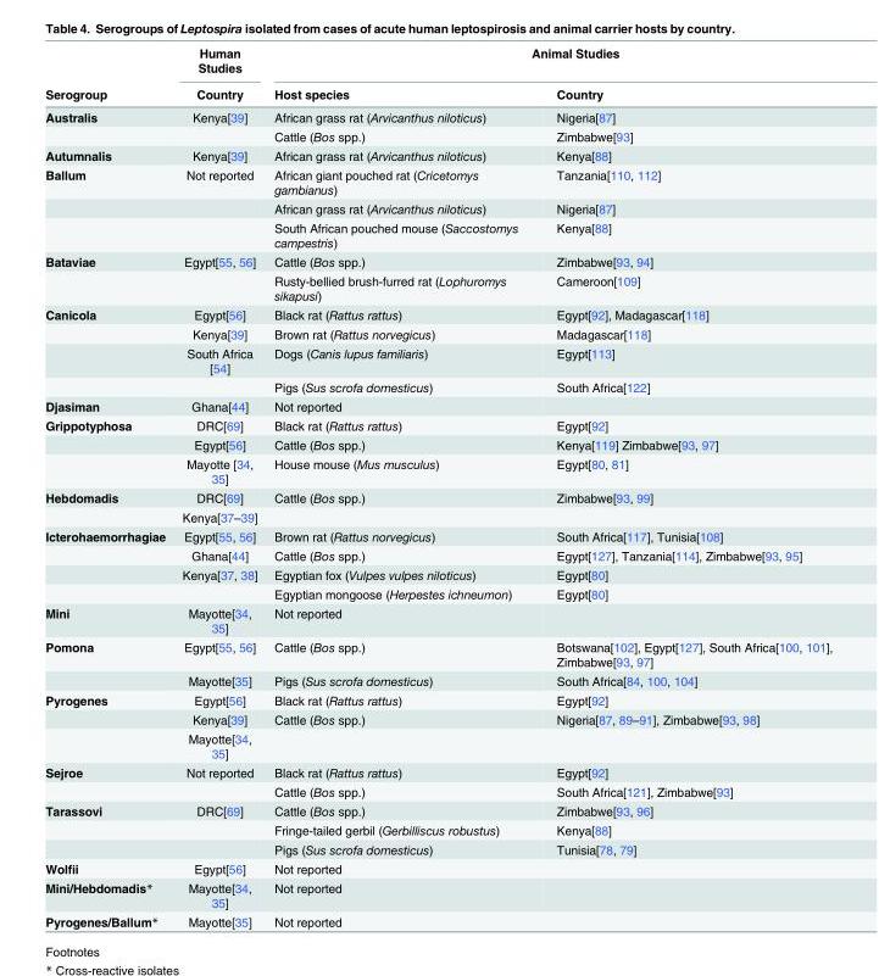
<table><thead><tr><td rowspan="2">Serogroup</td><td rowspan="2">Human Studies Country</td><td colspan="2">Animal Studies</td></tr><tr><td>Host species</td><td>Country</td></tr></thead><tbody><tr><td rowspan="2">Australis</td><td>Kenya[39]</td><td>African grass rat (Arvicanthus niloticus)</td><td>Nigeria[87]</td></tr><tr><td></td><td>Cattle (Bos spp.)</td><td>Zimbabwe[93]</td></tr><tr><td>Autumnalis</td><td>Kenya[39]</td><td>African grass rat (Arvicanthus niloticus)</td><td>Kenya[88]</td></tr><tr><td rowspan="3">Ballum</td><td>Not reported</td><td>African giant pouched rat (Cricetomys gambianus)</td><td>Tanzania[110, 112]</td></tr><tr><td></td><td>African grass rat (Arvicanthus niloticus)</td><td>Nigeria[87]</td></tr><tr><td></td><td>South African pouched mouse (Saccostomys campestris)</td><td>Kenya[88]</td></tr><tr><td rowspan="2">Bataviae</td><td>Egypt[55, 56]</td><td>Cattle (Bos spp.)</td><td>Zimbabwe[93, 94]</td></tr><tr><td></td><td>Rusty-bellied brush-furred rat (Lophuromys sikapusi)</td><td>Cameroon[109]</td></tr><tr><td rowspan="4">Canicola</td><td>Egypt[56]</td><td>Black rat (Rattus rattus)</td><td>Egypt[92], Madagascar[118]</td></tr><tr><td>Kenya[39]</td><td>Brown rat (Rattus norvegicus)</td><td>Madagascar[118]</td></tr><tr><td>South Africa [54]</td><td>Dogs (Canis lupus familiaris)</td><td>Egypt[113]</td></tr><tr><td></td><td>Pigs (Sus scrofa domesticus)</td><td>South Africa[122]</td></tr><tr><td>Djasiman</td><td>Ghana[44]</td><td>Not reported</td><td></td></tr><tr><td rowspan="3">Grippotyphosa</td><td>DRC[69]</td><td>Black rat (Rattus rattus)</td><td>Egypt[92]</td></tr><tr><td>Egypt[56]</td><td>Cattle (Bos spp.)</td><td>Kenya[119] Zimbabwe[93, 97]</td></tr><tr><td>Mayotte [34, 35]</td><td>House mouse (Mus musculus)</td><td>Egypt[80, 81]</td></tr><tr><td rowspan="2">Hebdomadis</td><td>DRC[69]</td><td>Cattle (Bos spp.)</td><td>Zimbabwe[93, 99]</td></tr><tr><td>Kenya[37–39]</td><td></td><td></td></tr><tr><td rowspan="4">Icterohaemorrhagiae</td><td>Egypt[55, 56]</td><td>Brown rat (Rattus norvegicus)</td><td>South Africa[117], Tunisia[108]</td></tr><tr><td>Ghana[44]</td><td>Cattle (Bos spp.)</td><td>Egypt[127], Tanzania[114], Zimbabwe[93, 95]</td></tr><tr><td>Kenya[37, 38]</td><td>Egyptian fox (Vulpes vulpes niloticus)</td><td>Egypt[80]</td></tr><tr><td></td><td>Egyptian mongoose (Herpestes ichneumon)</td><td>Egypt[80]</td></tr><tr><td>Mini</td><td>Mayotte[34, 35]</td><td>Not reported</td><td></td></tr><tr><td rowspan="2">Pomona</td><td>Egypt[55, 56]</td><td>Cattle (Bos spp.)</td><td>Botswana[102], Egypt[127], South Africa[100, 101], Zimbabwe[93, 97]</td></tr><tr><td>Mayotte[35]</td><td>Pigs (Sus scrofa domesticus)</td><td>South Africa[84, 100, 104]</td></tr><tr><td rowspan="3">Pyrogenes</td><td>Egypt[56]</td><td>Black rat (Rattus rattus)</td><td>Egypt[92]</td></tr><tr><td>Kenya[39]</td><td>Cattle (Bos spp.)</td><td>Nigeria[87, 89–91], Zimbabwe[93, 98]</td></tr><tr><td>Mayotte[34, 35]</td><td></td><td></td></tr><tr><td rowspan="2">Sejroe</td><td>Not reported</td><td>Black rat (Rattus rattus)</td><td>Egypt[92]</td></tr><tr><td></td><td>Cattle (Bos spp.)</td><td>South Africa[121], Zimbabwe[93]</td></tr><tr><td rowspan="3">Tarassovi</td><td>DRC[69]</td><td>Cattle (Bos spp.)</td><td>Zimbabwe[93, 96]</td></tr><tr><td></td><td>Fringe-tailed gerbil (Gerbilliscus robustus)</td><td>Kenya[88]</td></tr><tr><td></td><td>Pigs (Sus scrofa domesticus)</td><td>Tunisia[78, 79]</td></tr><tr><td>Wolfii</td><td>Egypt[56]</td><td>Not reported</td><td></td></tr><tr><td>Mini/Hebdomadis*</td><td>Mayotte[34, 35]</td><td>Not reported</td><td></td></tr><tr><td>Pyrogenes/Ballum*</td><td>Mayotte[35]</td><td>Not reported</td><td></td></tr></tbody></table>